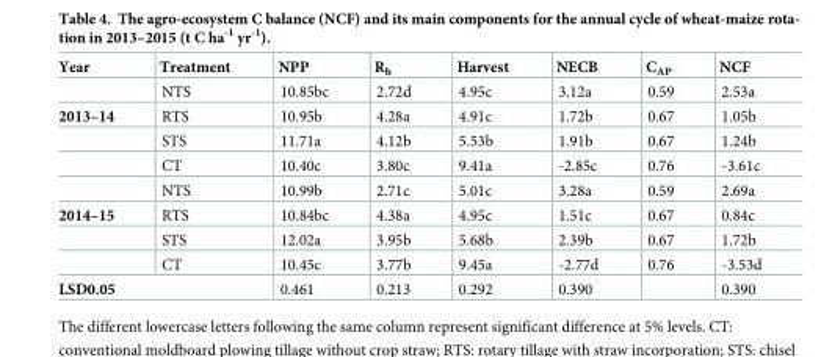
<table><thead><tr><td>Year</td><td>Treatment</td><td>NPP</td><td>R<sub>h</sub></td><td>Harvest</td><td>NECB</td><td>C<sub>AP</sub></td><td>NCF</td></tr></thead><tbody><tr><td></td><td>NTS</td><td>10.85bc</td><td>2.72d</td><td>4.95c</td><td>3.12a</td><td>0.59</td><td>2.53a</td></tr><tr><td rowspan="4">2013–14</td><td>RTS</td><td>10.95b</td><td>4.28a</td><td>4.91c</td><td>1.72b</td><td>0.67</td><td>1.05b</td></tr><tr><td>STS</td><td>11.71a</td><td>4.12b</td><td>5.53b</td><td>1.91b</td><td>0.67</td><td>1.24b</td></tr><tr><td>CT</td><td>10.40c</td><td>3.80c</td><td>9.41a</td><td>-2.85c</td><td>0.76</td><td>-3.61c</td></tr><tr><td>NTS</td><td>10.99b</td><td>2.71c</td><td>5.01c</td><td>3.28a</td><td>0.59</td><td>2.69a</td></tr><tr><td rowspan="3">2014–15</td><td>RTS</td><td>10.84bc</td><td>4.38a</td><td>4.95c</td><td>1.51c</td><td>0.67</td><td>0.84c</td></tr><tr><td>STS</td><td>12.02a</td><td>3.95b</td><td>5.68b</td><td>2.39b</td><td>0.67</td><td>1.72b</td></tr><tr><td>CT</td><td>10.45c</td><td>3.77b</td><td>9.45a</td><td>-2.77d</td><td>0.76</td><td>-3.53d</td></tr><tr><td colspan="2">LSD0.05</td><td>0.461</td><td>0.213</td><td>0.292</td><td>0.390</td><td></td><td>0.390</td></tr></tbody></table>